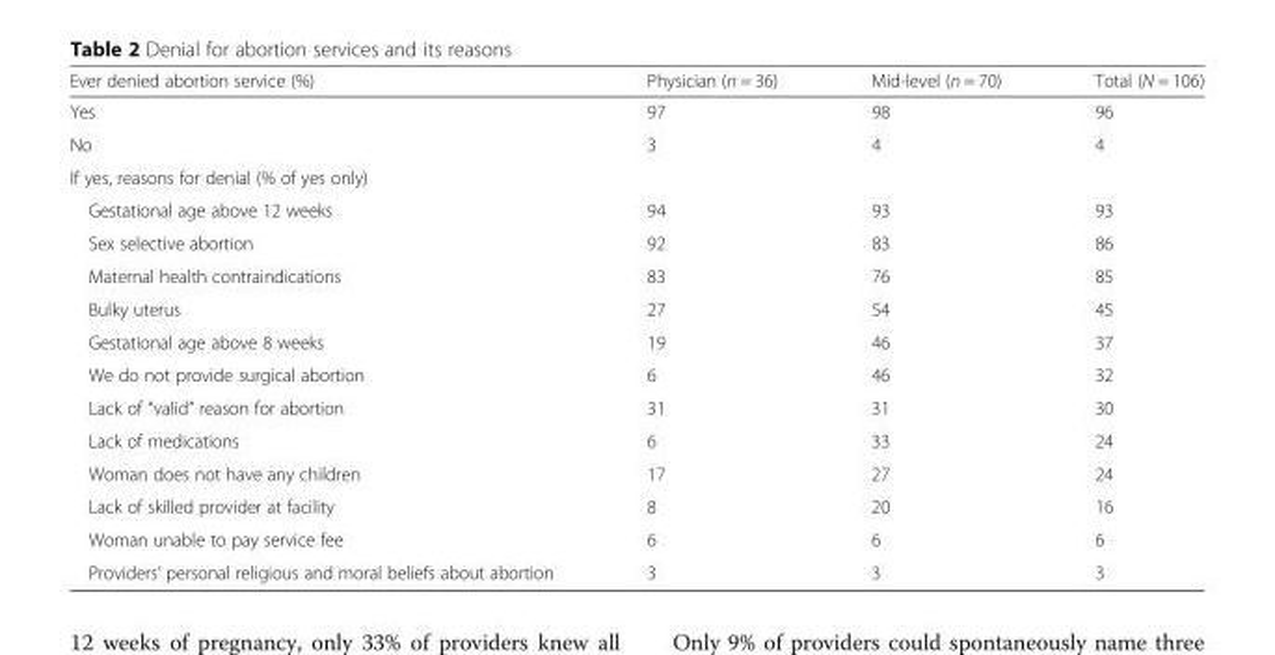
<table><thead><tr><td>Ever denied abortion service (%)</td><td>Physician (n = 36)</td><td>Mid-level (n = 70)</td><td>Total (N = 106)</td></tr></thead><tbody><tr><td>Yes</td><td>97</td><td>98</td><td>96</td></tr><tr><td>No</td><td>3</td><td>4</td><td>4</td></tr><tr><td colspan="4">If yes, reasons for denial (% of yes only)</td></tr><tr><td>Gestational age above 12 weeks</td><td>94</td><td>93</td><td>93</td></tr><tr><td>Sex selective abortion</td><td>92</td><td>83</td><td>86</td></tr><tr><td>Maternal health contraindications</td><td>83</td><td>76</td><td>85</td></tr><tr><td>Bulky uterus</td><td>27</td><td>54</td><td>45</td></tr><tr><td>Gestational age above 8 weeks</td><td>19</td><td>46</td><td>37</td></tr><tr><td>We do not provide surgical abortion</td><td>6</td><td>46</td><td>32</td></tr><tr><td>Lack of “valid” reason for abortion</td><td>31</td><td>31</td><td>30</td></tr><tr><td>Lack of medications</td><td>6</td><td>33</td><td>24</td></tr><tr><td>Woman does not have any children</td><td>17</td><td>27</td><td>24</td></tr><tr><td>Lack of skilled provider at facility</td><td>8</td><td>20</td><td>16</td></tr><tr><td>Woman unable to pay service fee</td><td>6</td><td>6</td><td>6</td></tr><tr><td>Providers’ personal religious and moral beliefs about abortion</td><td>3</td><td>3</td><td>3</td></tr></tbody></table>